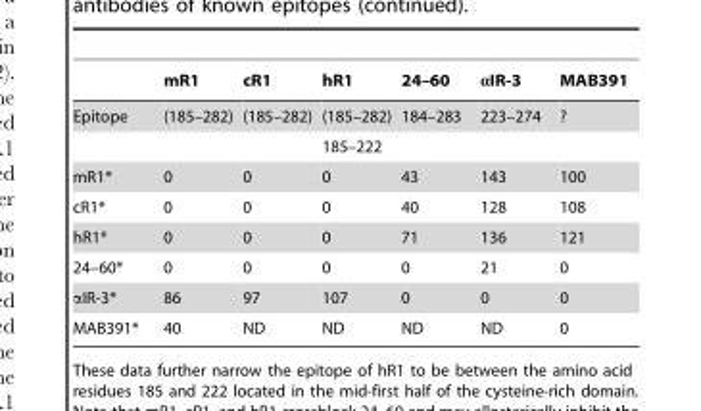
<table><thead><tr><td></td><td>mR1</td><td>cR1</td><td>hR1</td><td>24–60</td><td>αIR-3</td><td>MAB391</td></tr></thead><tbody><tr><td rowspan="2">Epitope</td><td>(185–282)</td><td>(185–282)</td><td>(185–282)</td><td>184–283</td><td>223–274</td><td>?</td></tr><tr><td></td><td></td><td>185–222</td><td></td><td></td><td></td></tr><tr><td>mR1*</td><td>0</td><td>0</td><td>0</td><td>43</td><td>143</td><td>100</td></tr><tr><td>cR1*</td><td>0</td><td>0</td><td>0</td><td>40</td><td>128</td><td>108</td></tr><tr><td>hR1*</td><td>0</td><td>0</td><td>0</td><td>71</td><td>136</td><td>121</td></tr><tr><td>24–60*</td><td>0</td><td>0</td><td>0</td><td>0</td><td>21</td><td>0</td></tr><tr><td>αIR-3*</td><td>86</td><td>97</td><td>107</td><td>0</td><td>0</td><td>0</td></tr><tr><td>MAB391*</td><td>40</td><td>ND</td><td>ND</td><td>ND</td><td>ND</td><td>0</td></tr></tbody></table>